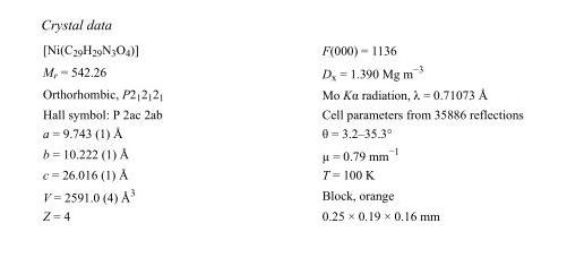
<table><tbody><tr><td>[Ni(C<sub>29</sub>H<sub>29</sub>N<sub>3</sub>O<sub>4</sub>)]</td><td>F(000) = 1136</td></tr><tr><td>M<sub>r</sub> = 542.26</td><td>D<sub>x</sub> = 1.390 Mg m<sup>−3</sup></td></tr><tr><td>Orthorhombic, P2<sub>1</sub>2<sub>1</sub>2<sub>1</sub></td><td>Mo Kα radiation, λ = 0.71073 Å</td></tr><tr><td>Hall symbol: P 2ac 2ab</td><td>Cell parameters from 35886 reflections</td></tr><tr><td>a = 9.743 (1) Å</td><td>θ = 3.2–35.3°</td></tr><tr><td>b = 10.222 (1) Å</td><td>µ = 0.79 mm<sup>−1</sup></td></tr><tr><td>c = 26.016 (1) Å</td><td>T = 100 K</td></tr><tr><td>V = 2591.0 (4) Å<sup>3</sup></td><td>Block, orange</td></tr><tr><td>Z = 4</td><td>0.25 × 0.19 × 0.16 mm</td></tr></tbody></table>